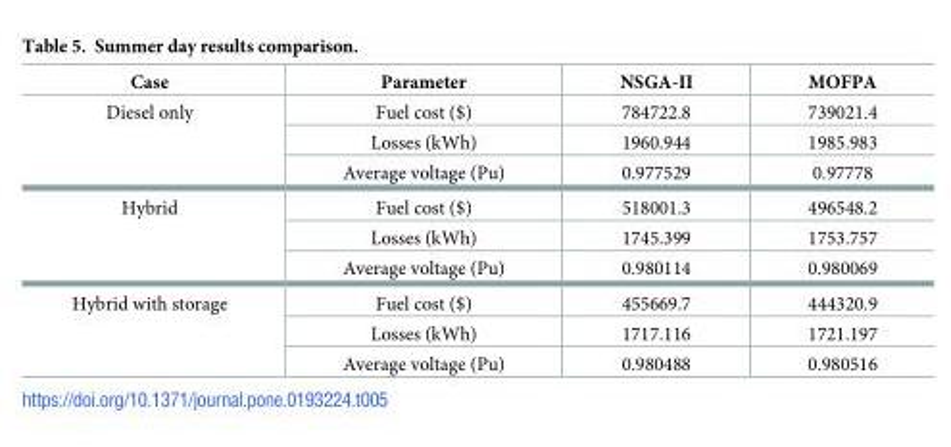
<table><thead><tr><td>Case</td><td>Parameter</td><td>NSGA-II</td><td>MOFPA</td></tr></thead><tbody><tr><td rowspan="3">Diesel only</td><td>Fuel cost ($)</td><td>784722.8</td><td>739021.4</td></tr><tr><td>Losses (kWh)</td><td>1960.944</td><td>1985.983</td></tr><tr><td>Average voltage (Pu)</td><td>0.977529</td><td>0.97778</td></tr><tr><td rowspan="3">Hybrid</td><td>Fuel cost ($)</td><td>518001.3</td><td>496548.2</td></tr><tr><td>Losses (kWh)</td><td>1745.399</td><td>1753.757</td></tr><tr><td>Average voltage (Pu)</td><td>0.980114</td><td>0.980069</td></tr><tr><td rowspan="3">Hybrid with storage</td><td>Fuel cost ($)</td><td>455669.7</td><td>444320.9</td></tr><tr><td>Losses (kWh)</td><td>1717.116</td><td>1721.197</td></tr><tr><td>Average voltage (Pu)</td><td>0.980488</td><td>0.980516</td></tr></tbody></table>